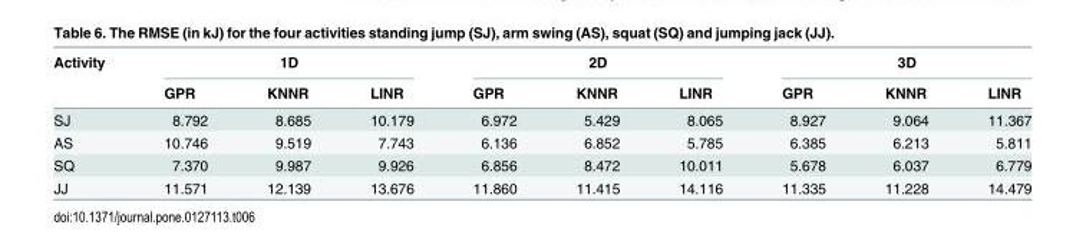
<table><thead><tr><td rowspan="2">Activity</td><td colspan="3">1D</td><td colspan="3">2D</td><td colspan="3">3D</td></tr><tr><td>GPR</td><td>KNNR</td><td>LINR</td><td>GPR</td><td>KNNR</td><td>LINR</td><td>GPR</td><td>KNNR</td><td>LINR</td></tr></thead><tbody><tr><td>SJ</td><td>8.792</td><td>8.685</td><td>10.179</td><td>6.972</td><td>5.429</td><td>8.065</td><td>8.927</td><td>9.064</td><td>11.367</td></tr><tr><td>AS</td><td>10.746</td><td>9.519</td><td>7.743</td><td>6.136</td><td>6.852</td><td>5.785</td><td>6.385</td><td>6.213</td><td>5.811</td></tr><tr><td>SQ</td><td>7.370</td><td>9.987</td><td>9.926</td><td>6.856</td><td>8.472</td><td>10.011</td><td>5.678</td><td>6.037</td><td>6.779</td></tr><tr><td>JJ</td><td>11.571</td><td>12.139</td><td>13.676</td><td>11.860</td><td>11.415</td><td>14.116</td><td>11.335</td><td>11.228</td><td>14.479</td></tr></tbody></table>